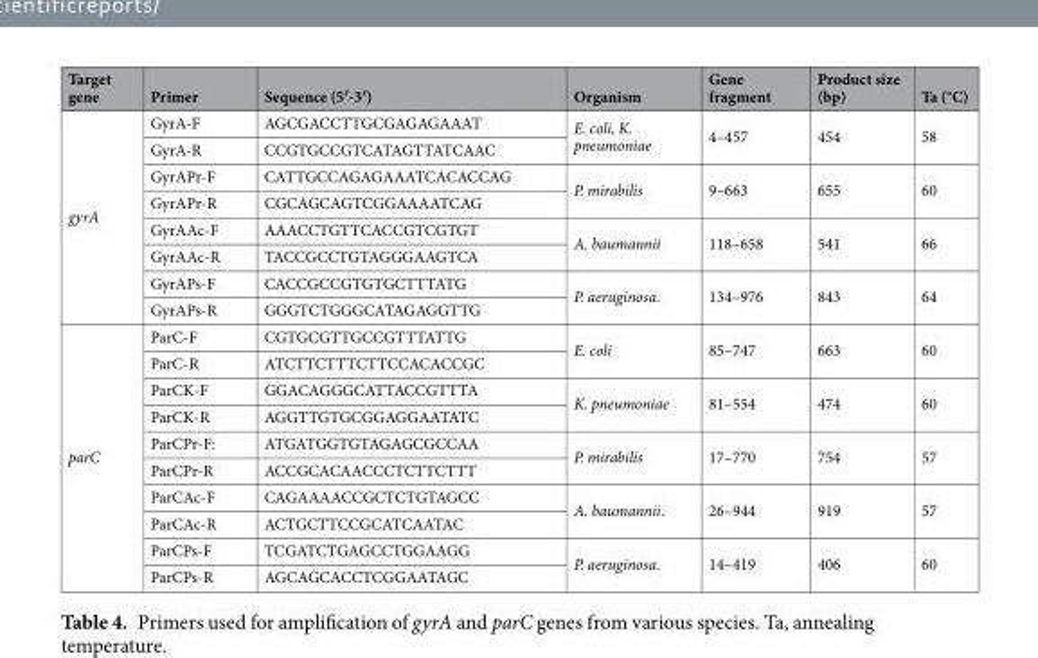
<table><thead><tr><td>Target gene</td><td>Primer</td><td>Sequence (5′-3′)</td><td>Organism</td><td>Gene fragment</td><td>Product size (bp)</td><td>Ta (°C)</td></tr></thead><tbody><tr><td rowspan="8">gyrA</td><td>GyrA-F</td><td>AGCGACCTTGCGAGAGAAAT</td><td rowspan="2">E. coli, K. pneumoniae</td><td rowspan="2">4–457</td><td rowspan="2">454</td><td rowspan="2">58</td></tr><tr><td>GyrA-R</td><td>CCGTGCCGTCATAGTTATCAAC</td></tr><tr><td>GyrAPr-F</td><td>CATTGCCAGAGAAATCACACCAG</td><td rowspan="2">P. mirabilis</td><td rowspan="2">9–663</td><td rowspan="2">655</td><td rowspan="2">60</td></tr><tr><td>GyrAPr-R</td><td>CGCAGCAGTCGGAAAATCAG</td></tr><tr><td>GyrAAc-F</td><td>AAACCTGTTCACCGTCGTGT</td><td rowspan="2">A. baumannii</td><td rowspan="2">118–658</td><td rowspan="2">541</td><td rowspan="2">66</td></tr><tr><td>GyrAAc-R</td><td>TACCGCCTGTAGGGAAGTCA</td></tr><tr><td>GyrAPs-F</td><td>CACCGCCGTGTGCTTTATG</td><td rowspan="2">P. aeruginosa.</td><td rowspan="2">134–976</td><td rowspan="2">843</td><td rowspan="2">64</td></tr><tr><td>GyrAPs-R</td><td>GGGTCTGGGCATAGAGGTTG</td></tr><tr><td rowspan="10">parC</td><td>ParC-F</td><td>CGTGCGTTGCCGTTTATTG</td><td rowspan="2">E. coli</td><td rowspan="2">85–747</td><td rowspan="2">663</td><td rowspan="2">60</td></tr><tr><td>ParC-R</td><td>ATCTTCTTTCTTCCACACCGC</td></tr><tr><td>ParCK-F</td><td>GGACAGGGCATTACCGTTTA</td><td rowspan="2">K. pneumoniae</td><td rowspan="2">81–554</td><td rowspan="2">474</td><td rowspan="2">60</td></tr><tr><td>ParCK-R</td><td>AGGTTGTGCGGAGGAATATC</td></tr><tr><td>ParCPr-F:</td><td>ATGATGGTGTAGAGCGCCAA</td><td rowspan="2">P. mirabilis</td><td rowspan="2">17–770</td><td rowspan="2">754</td><td rowspan="2">57</td></tr><tr><td>ParCPr-R</td><td>ACCGCACAACCCTCTTCTTT</td></tr><tr><td>ParCAc-F</td><td>CAGAAAACCGCTCTGTAGCC</td><td rowspan="2">A. baumannii.</td><td rowspan="2">26–944</td><td rowspan="2">919</td><td rowspan="2">57</td></tr><tr><td>ParCAc-R</td><td>ACTGCTTCCGCATCAATAC</td></tr><tr><td>ParCPs-F</td><td>TCGATCTGAGCCTGGAAGG</td><td rowspan="2">P. aeruginosa.</td><td rowspan="2">14–419</td><td rowspan="2">406</td><td rowspan="2">60</td></tr><tr><td>ParCPs-R</td><td>AGCAGCACCTCGGAATAGC</td></tr></tbody></table>